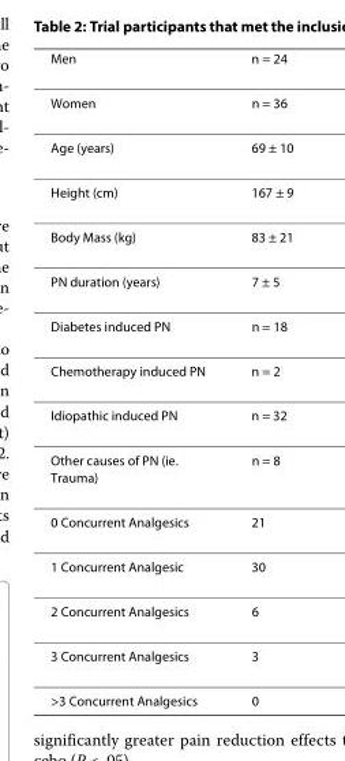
<table><thead><tr><td>Men</td><td>n = 24</td></tr></thead><tbody><tr><td>Women</td><td>n = 36</td></tr><tr><td>Age (years)</td><td>69 ± 10</td></tr><tr><td>Height (cm)</td><td>167 ± 9</td></tr><tr><td>Body Mass (kg)</td><td>83 ± 21</td></tr><tr><td>PN duration (years)</td><td>7 ± 5</td></tr><tr><td>Diabetes induced PN</td><td>n = 18</td></tr><tr><td>Chemotherapy induced PN</td><td>n = 2</td></tr><tr><td>Idiopathic induced PN</td><td>n = 32</td></tr><tr><td>Other causes of PN (ie. Trauma)</td><td>n = 8</td></tr><tr><td>0 Concurrent Analgesics</td><td>21</td></tr><tr><td>1 Concurrent Analgesic</td><td>30</td></tr><tr><td>2 Concurrent Analgesics</td><td>6</td></tr><tr><td>3 Concurrent Analgesics</td><td>3</td></tr><tr><td>&gt;3 Concurrent Analgesics</td><td>0</td></tr></tbody></table>